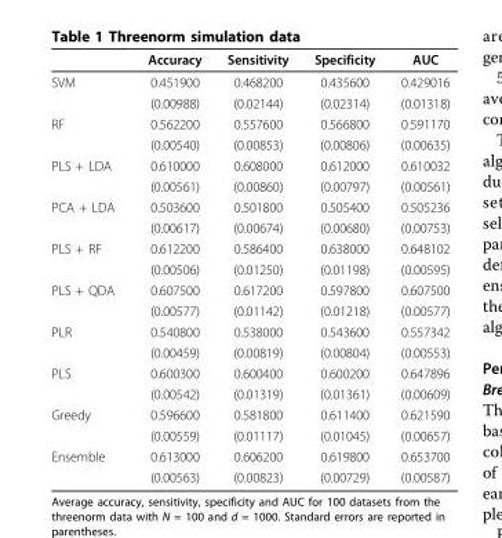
<table><thead><tr><td></td><td>Accuracy</td><td>Sensitivity</td><td>Specificity</td><td>AUC</td></tr></thead><tbody><tr><td rowspan="2">SVM</td><td>0.451900</td><td>0.468200</td><td>0.435600</td><td>0.429016</td></tr><tr><td>(0.00988)</td><td>(0.02144)</td><td>(0.02314)</td><td>(0.01318)</td></tr><tr><td rowspan="2">RF</td><td>0.562200</td><td>0.557600</td><td>0.566800</td><td>0.591170</td></tr><tr><td>(0.00540)</td><td>(0.00853)</td><td>(0.00806)</td><td>(0.00635)</td></tr><tr><td rowspan="2">PLS + LDA</td><td>0.610000</td><td>0.608000</td><td>0.612000</td><td>0.610032</td></tr><tr><td>(0.00561)</td><td>(0.00860)</td><td>(0.00797)</td><td>(0.00561)</td></tr><tr><td rowspan="2">PCA + LDA</td><td>0.503600</td><td>0.501800</td><td>0.505400</td><td>0.505236</td></tr><tr><td>(0.00617)</td><td>(0.00674)</td><td>(0.00680)</td><td>(0.00753)</td></tr><tr><td rowspan="2">PLS + RF</td><td>0.612200</td><td>0.586400</td><td>0.638000</td><td>0.648102</td></tr><tr><td>(0.00506)</td><td>(0.01250)</td><td>(0.01198)</td><td>(0.00595)</td></tr><tr><td rowspan="2">PLS + QDA</td><td>0.607500</td><td>0.617200</td><td>0.597800</td><td>0.607500</td></tr><tr><td>(0.00577)</td><td>(0.01142)</td><td>(0.01218)</td><td>(0.00577)</td></tr><tr><td rowspan="2">PLR</td><td>0.540800</td><td>0.538000</td><td>0.543600</td><td>0.557342</td></tr><tr><td>(0.00459)</td><td>(0.00819)</td><td>(0.00804)</td><td>(0.00553)</td></tr><tr><td rowspan="2">PLS</td><td>0.600300</td><td>0.600400</td><td>0.600200</td><td>0.647896</td></tr><tr><td>(0.00542)</td><td>(0.01319)</td><td>(0.01361)</td><td>(0.00609)</td></tr><tr><td rowspan="2">Greedy</td><td>0.596600</td><td>0.581800</td><td>0.611400</td><td>0.621590</td></tr><tr><td>(0.00559)</td><td>(0.01117)</td><td>(0.01045)</td><td>(0.00657)</td></tr><tr><td rowspan="2">Ensemble</td><td>0.613000</td><td>0.606200</td><td>0.619800</td><td>0.653700</td></tr><tr><td>(0.00563)</td><td>(0.00823)</td><td>(0.00729)</td><td>(0.00587)</td></tr></tbody></table>